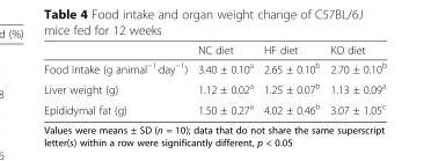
<table><thead><tr><td></td><td>NC diet</td><td>HF diet</td><td>KO diet</td></tr></thead><tbody><tr><td>Food intake (g animal<sup>−1</sup>·day<sup>−1</sup>)</td><td>3.40 ± 0.10<sup>a</sup></td><td>2.65 ± 0.10<sup>b</sup></td><td>2.70 ± 0.10<sup>b</sup></td></tr><tr><td>Liver weight (g)</td><td>1.12 ± 0.02<sup>a</sup></td><td>1.25 ± 0.07<sup>b</sup></td><td>1.13 ± 0.09<sup>a</sup></td></tr><tr><td>Epididymal fat (g)</td><td>1.50 ± 0.27<sup>a</sup></td><td>4.02 ± 0.46<sup>b</sup></td><td>3.07 ± 1.05<sup>c</sup></td></tr></tbody></table>